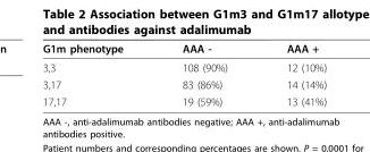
<table><thead><tr><td>G1m phenotype</td><td>AAA -</td><td>AAA +</td></tr></thead><tbody><tr><td>3,3</td><td>108 (90%)</td><td>12 (10%)</td></tr><tr><td>3,17</td><td>83 (86%)</td><td>14 (14%)</td></tr><tr><td>17,17</td><td>19 (59%)</td><td>13 (41%)</td></tr></tbody></table>